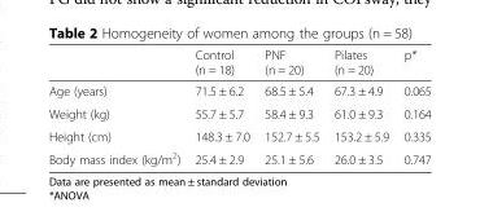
<table><thead><tr><td></td><td>Control (n = 18)</td><td>PNF (n = 20)</td><td>Pilates (n = 20)</td><td>p*</td></tr></thead><tbody><tr><td>Age (years)</td><td>71.5 ± 6.2</td><td>68.5 ± 5.4</td><td>67.3 ± 4.9</td><td>0.065</td></tr><tr><td>Weight (kg)</td><td>55.7 ± 5.7</td><td>58.4 ± 9.3</td><td>61.0 ± 9.3</td><td>0.164</td></tr><tr><td>Height (cm)</td><td>148.3 ± 7.0</td><td>152.7 ± 5.5</td><td>153.2 ± 5.9</td><td>0.335</td></tr><tr><td>Body mass index (kg/m<sup>2</sup>)</td><td>25.4 ± 2.9</td><td>25.1 ± 5.6</td><td>26.0 ± 3.5</td><td>0.747</td></tr></tbody></table>